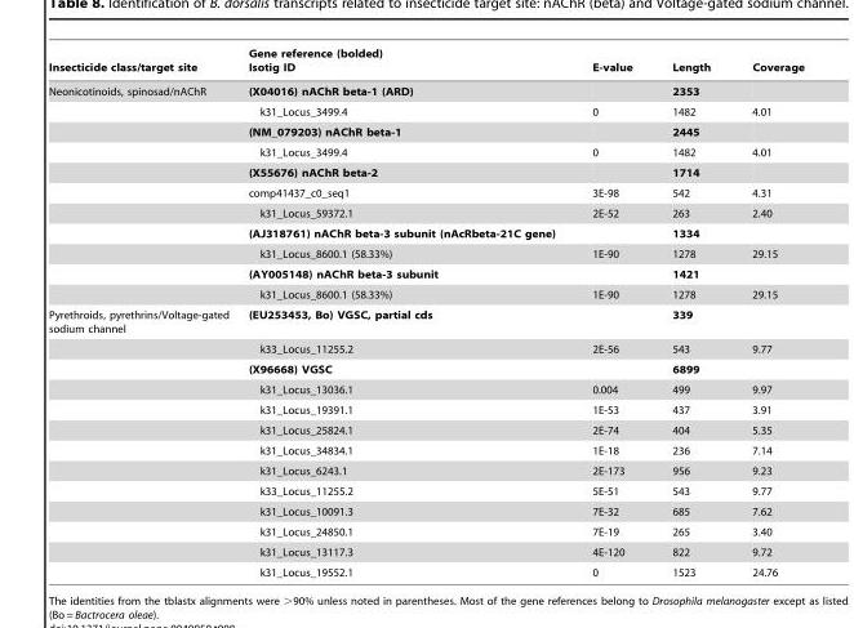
<table><thead><tr><td>Insecticide class/target site</td><td>Gene reference (bolded) Isotig ID</td><td>E-value</td><td>Length</td><td>Coverage</td></tr></thead><tbody><tr><td rowspan="11">Neonicotinoids, spinosad/nAChR</td><td>(X04016) nAChR beta-1 (ARD)</td><td></td><td>2353</td><td></td></tr><tr><td>k31_Locus_3499.4</td><td>0</td><td>1482</td><td>4.01</td></tr><tr><td>(NM_079203) nAChR beta-1</td><td></td><td>2445</td><td></td></tr><tr><td>k31_Locus_3499.4</td><td>0</td><td>1482</td><td>4.01</td></tr><tr><td>(X55676) nAChR beta-2</td><td></td><td>1714</td><td></td></tr><tr><td>comp41437_c0_seq1</td><td>3E-98</td><td>542</td><td>4.31</td></tr><tr><td>k31_Locus_59372.1</td><td>2E-52</td><td>263</td><td>2.40</td></tr><tr><td>(AJ318761) nAChR beta-3 subunit (nAcRbeta-21C gene)</td><td></td><td>1334</td><td></td></tr><tr><td>k31_Locus_8600.1 (58.33%)</td><td>1E-90</td><td>1278</td><td>29.15</td></tr><tr><td>(AY005148) nAChR beta-3 subunit</td><td></td><td>1421</td><td></td></tr><tr><td>k31_Locus_8600.1 (58.33%)</td><td>1E-90</td><td>1278</td><td>29.15</td></tr><tr><td rowspan="13">Pyrethroids, pyrethrins/Voltage-gated sodium channel</td><td>(EU253453, Bo) VGSC, partial cds</td><td></td><td>339</td><td></td></tr><tr><td>k33_Locus_11255.2</td><td>2E-56</td><td>543</td><td>9.77</td></tr><tr><td>(X96668) VGSC</td><td></td><td>6899</td><td></td></tr><tr><td>k31_Locus_13036.1</td><td>0.004</td><td>499</td><td>9.97</td></tr><tr><td>k31_Locus_19391.1</td><td>1E-53</td><td>437</td><td>3.91</td></tr><tr><td>k31_Locus_25824.1</td><td>2E-74</td><td>404</td><td>5.35</td></tr><tr><td>k31_Locus_34834.1</td><td>1E-18</td><td>236</td><td>7.14</td></tr><tr><td>k31_Locus_6243.1</td><td>2E-173</td><td>956</td><td>9.23</td></tr><tr><td>k33_Locus_11255.2</td><td>5E-51</td><td>543</td><td>9.77</td></tr><tr><td>k31_Locus_10091.3</td><td>7E-32</td><td>685</td><td>7.62</td></tr><tr><td>k31_Locus_24850.1</td><td>7E-19</td><td>265</td><td>3.40</td></tr><tr><td>k31_Locus_13117.3</td><td>4E-120</td><td>822</td><td>9.72</td></tr><tr><td>k31_Locus_19552.1</td><td>0</td><td>1523</td><td>24.76</td></tr></tbody></table>